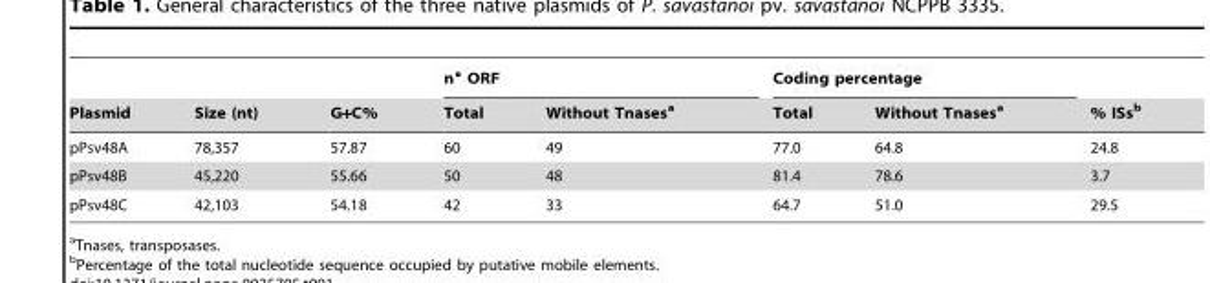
<table><thead><tr><td rowspan="2">Plasmid</td><td rowspan="2">Size (nt)</td><td rowspan="2">G+C%</td><td colspan="2">n° ORF</td><td colspan="2">Coding percentage</td><td rowspan="2">% ISs<sup>b</sup></td></tr><tr><td>Total</td><td>Without Tnases<sup>a</sup></td><td>Total</td><td>Without Tnases<sup>a</sup></td></tr></thead><tbody><tr><td>pPsv48A</td><td>78,357</td><td>57.87</td><td>60</td><td>49</td><td>77.0</td><td>64.8</td><td>24.8</td></tr><tr><td>pPsv48B</td><td>45,220</td><td>55.66</td><td>50</td><td>48</td><td>81.4</td><td>78.6</td><td>3.7</td></tr><tr><td>pPsv48C</td><td>42,103</td><td>54.18</td><td>42</td><td>33</td><td>64.7</td><td>51.0</td><td>29.5</td></tr></tbody></table>